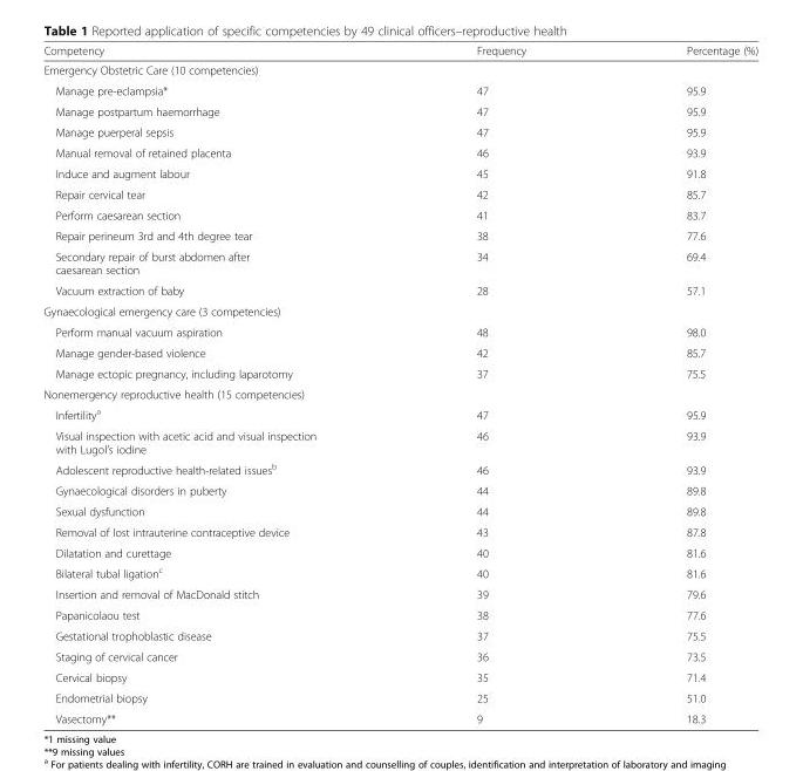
<table><thead><tr><td>Competency</td><td>Frequency</td><td>Percentage (%)</td></tr></thead><tbody><tr><td colspan="3">Emergency Obstetric Care (10 competencies)</td></tr><tr><td>Manage pre-eclampsia*</td><td>47</td><td>95.9</td></tr><tr><td>Manage postpartum haemorrhage</td><td>47</td><td>95.9</td></tr><tr><td>Manage puerperal sepsis</td><td>47</td><td>95.9</td></tr><tr><td>Manual removal of retained placenta</td><td>46</td><td>93.9</td></tr><tr><td>Induce and augment labour</td><td>45</td><td>91.8</td></tr><tr><td>Repair cervical tear</td><td>42</td><td>85.7</td></tr><tr><td>Perform caesarean section</td><td>41</td><td>83.7</td></tr><tr><td>Repair perineum 3rd and 4th degree tear</td><td>38</td><td>77.6</td></tr><tr><td>Secondary repair of burst abdomen after caesarean section</td><td>34</td><td>69.4</td></tr><tr><td>Vacuum extraction of baby</td><td>28</td><td>57.1</td></tr><tr><td colspan="3">Gynaecological emergency care (3 competencies)</td></tr><tr><td>Perform manual vacuum aspiration</td><td>48</td><td>98.0</td></tr><tr><td>Manage gender-based violence</td><td>42</td><td>85.7</td></tr><tr><td>Manage ectopic pregnancy, including laparotomy</td><td>37</td><td>75.5</td></tr><tr><td colspan="3">Nonemergency reproductive health (15 competencies)</td></tr><tr><td>Infertility<sup>a</sup></td><td>47</td><td>95.9</td></tr><tr><td>Visual inspection with acetic acid and visual inspection with Lugol’s iodine</td><td>46</td><td>93.9</td></tr><tr><td>Adolescent reproductive health-related issues<sup>b</sup></td><td>46</td><td>93.9</td></tr><tr><td>Gynaecological disorders in puberty</td><td>44</td><td>89.8</td></tr><tr><td>Sexual dysfunction</td><td>44</td><td>89.8</td></tr><tr><td>Removal of lost intrauterine contraceptive device</td><td>43</td><td>87.8</td></tr><tr><td>Dilatation and curettage</td><td>40</td><td>81.6</td></tr><tr><td>Bilateral tubal ligation<sup>c</sup></td><td>40</td><td>81.6</td></tr><tr><td>Insertion and removal of MacDonald stitch</td><td>39</td><td>79.6</td></tr><tr><td>Papanicolaou test</td><td>38</td><td>77.6</td></tr><tr><td>Gestational trophoblastic disease</td><td>37</td><td>75.5</td></tr><tr><td>Staging of cervical cancer</td><td>36</td><td>73.5</td></tr><tr><td>Cervical biopsy</td><td>35</td><td>71.4</td></tr><tr><td>Endometrial biopsy</td><td>25</td><td>51.0</td></tr><tr><td>Vasectomy**</td><td>9</td><td>18.3</td></tr></tbody></table>